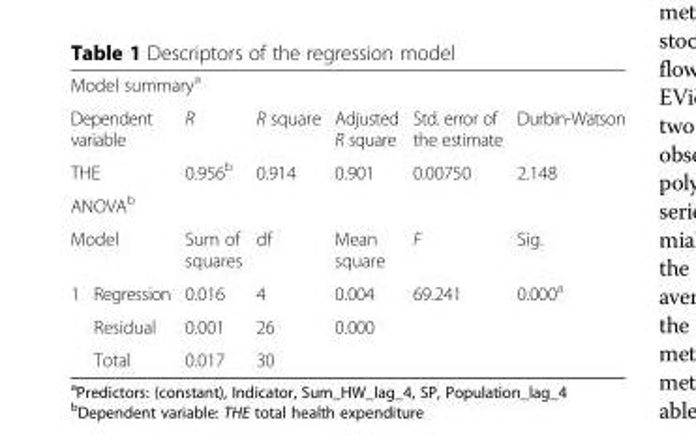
<table><tbody><tr><td colspan="7">Model summary<sup>a</sup></td></tr><tr><td colspan="2">Dependent variable</td><td>R</td><td>R square</td><td>Adjusted R square</td><td>Std. error of the estimate</td><td>Durbin-Watson</td></tr><tr><td colspan="2">THE</td><td>0.956<sup>b</sup></td><td>0.914</td><td>0.901</td><td>0.00750</td><td>2.148</td></tr><tr><td colspan="7">ANOVA<sup>b</sup></td></tr><tr><td colspan="2">Model</td><td>Sum of squares</td><td>df</td><td>Mean square</td><td>F</td><td>Sig.</td></tr><tr><td rowspan="3">1</td><td>Regression</td><td>0.016</td><td>4</td><td>0.004</td><td>69.241</td><td>0.000<sup>a</sup></td></tr><tr><td>Residual</td><td>0.001</td><td>26</td><td>0.000</td><td></td><td></td></tr><tr><td>Total</td><td>0.017</td><td>30</td><td></td><td></td><td></td></tr></tbody></table>